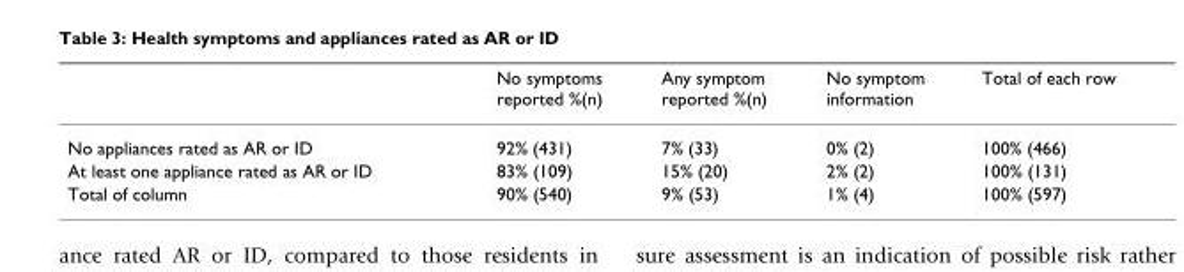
<table><thead><tr><td></td><td>No symptoms reported %(n)</td><td>Any symptom reported %(n)</td><td>No symptom information</td><td>Total of each row</td></tr></thead><tbody><tr><td>No appliances rated as AR or ID</td><td>92% (431)</td><td>7% (33)</td><td>0% (2)</td><td>100% (466)</td></tr><tr><td>At least one appliance rated as AR or ID</td><td>83% (109)</td><td>15% (20)</td><td>2% (2)</td><td>100% (131)</td></tr><tr><td>Total of column</td><td>90% (540)</td><td>9% (53)</td><td>1% (4)</td><td>100% (597)</td></tr></tbody></table>